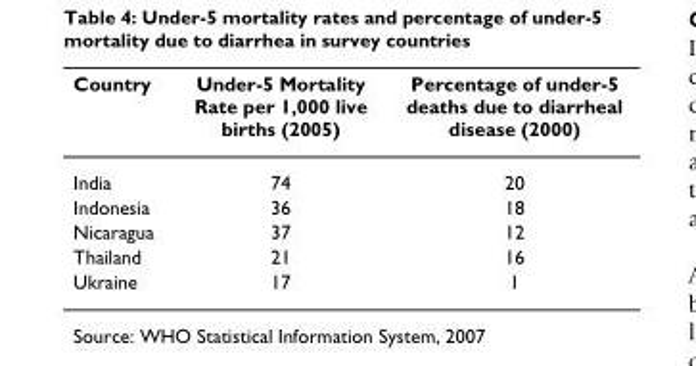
<table><thead><tr><td>Country</td><td>Under-5 Mortality Rate per 1,000 live births (2005)</td><td>Percentage of under-5 deaths due to diarrheal disease (2000)</td></tr></thead><tbody><tr><td>India</td><td>74</td><td>20</td></tr><tr><td>Indonesia</td><td>36</td><td>18</td></tr><tr><td>Nicaragua</td><td>37</td><td>12</td></tr><tr><td>Thailand</td><td>21</td><td>16</td></tr><tr><td>Ukraine</td><td>17</td><td>1</td></tr></tbody></table>